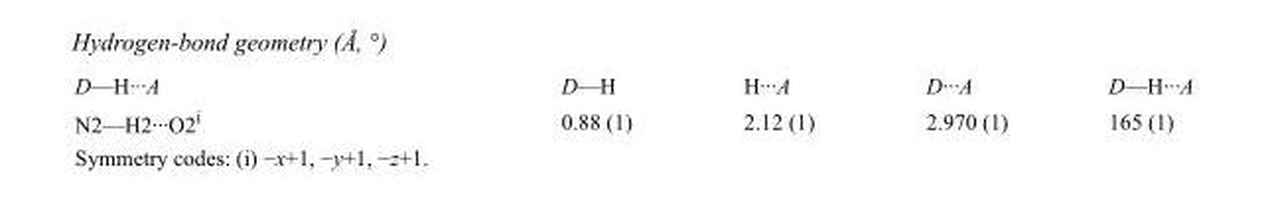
<table><tbody><tr><td>D—H···A</td><td>D—H</td><td>H···A</td><td>D···A</td><td>D—H···A</td></tr><tr><td>N2—H2···O2<sup>i</sup></td><td>0.88 (1)</td><td>2.12 (1)</td><td>2.970 (1)</td><td>165 (1)</td></tr></tbody></table>